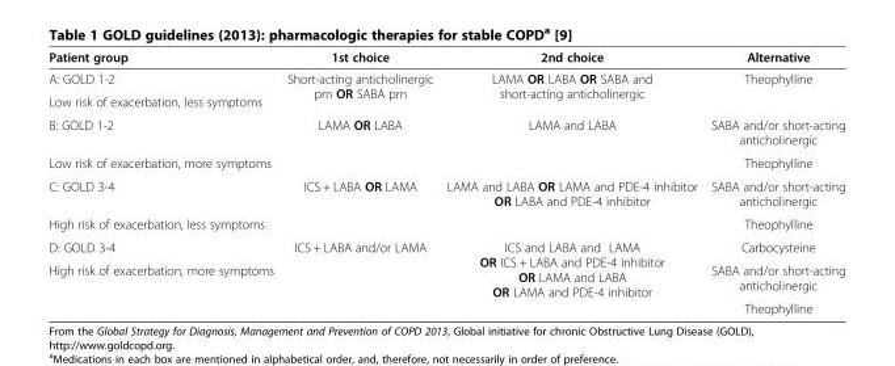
<table><thead><tr><td>Patient group</td><td>1st choice</td><td>2nd choice</td><td>Alternative</td></tr></thead><tbody><tr><td>A: GOLD 1-2</td><td rowspan="2">Short-acting anticholinergic prn OR SABA prn</td><td rowspan="2">LAMA OR LABA OR SABA and short-acting anticholinergic</td><td rowspan="2">Theophylline</td></tr><tr><td>Low risk of exacerbation, less symptoms</td></tr><tr><td>B: GOLD 1-2</td><td rowspan="2">LAMA OR LABA</td><td rowspan="2">LAMA and LABA</td><td>SABA and/or short-acting anticholinergic</td></tr><tr><td>Low risk of exacerbation, more symptoms</td><td>Theophylline</td></tr><tr><td>C: GOLD 3-4</td><td rowspan="2">ICS + LABA OR LAMA</td><td rowspan="2">LAMA and LABA OR LAMA and PDE-4 inhibitor OR LABA and PDE-4 inhibitor</td><td>SABA and/or short-acting anticholinergic</td></tr><tr><td>High risk of exacerbation, less symptoms</td><td>Theophylline</td></tr><tr><td>D: GOLD 3-4</td><td rowspan="2">ICS + LABA and/or LAMA</td><td rowspan="2">ICS and LABA and LAMA OR ICS + LABA and PDE-4 inhibitor OR LAMA and LABA OR LAMA and PDE-4 inhibitor</td><td>Carbocysteine</td></tr><tr><td rowspan="2">High risk of exacerbation, more symptoms</td><td>SABA and/or short-acting anticholinergic</td></tr><tr><td></td><td></td><td>Theophylline</td></tr></tbody></table>